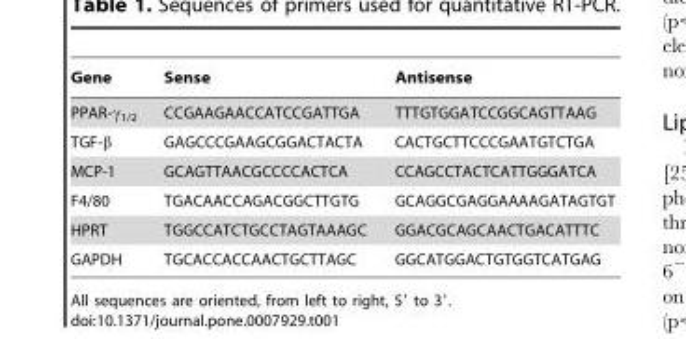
<table><thead><tr><td>Gene</td><td>Sense</td><td>Antisense</td></tr></thead><tbody><tr><td>PPAR-γ<sub>1/2</sub></td><td>CCGAAGAACCATCCGATTGA</td><td>TTTGTGGATCCGGCAGTTAAG</td></tr><tr><td>TGF-β</td><td>GAGCCCGAAGCGGACTACTA</td><td>CACTGCTTCCCGAATGTCTGA</td></tr><tr><td>MCP-1</td><td>GCAGTTAACGCCCCACTCA</td><td>CCAGCCTACTCATTGGGATCA</td></tr><tr><td>F4/80</td><td>TGACAACCAGACGGCTTGTG</td><td>GCAGGCGAGGAAAAGATAGTGT</td></tr><tr><td>HPRT</td><td>TGGCCATCTGCCTAGTAAAGC</td><td>GGACGCAGCAACTGACATTTC</td></tr><tr><td>GAPDH</td><td>TGCACCACCAACTGCTTAGC</td><td>GGCATGGACTGTGGTCATGAG</td></tr></tbody></table>